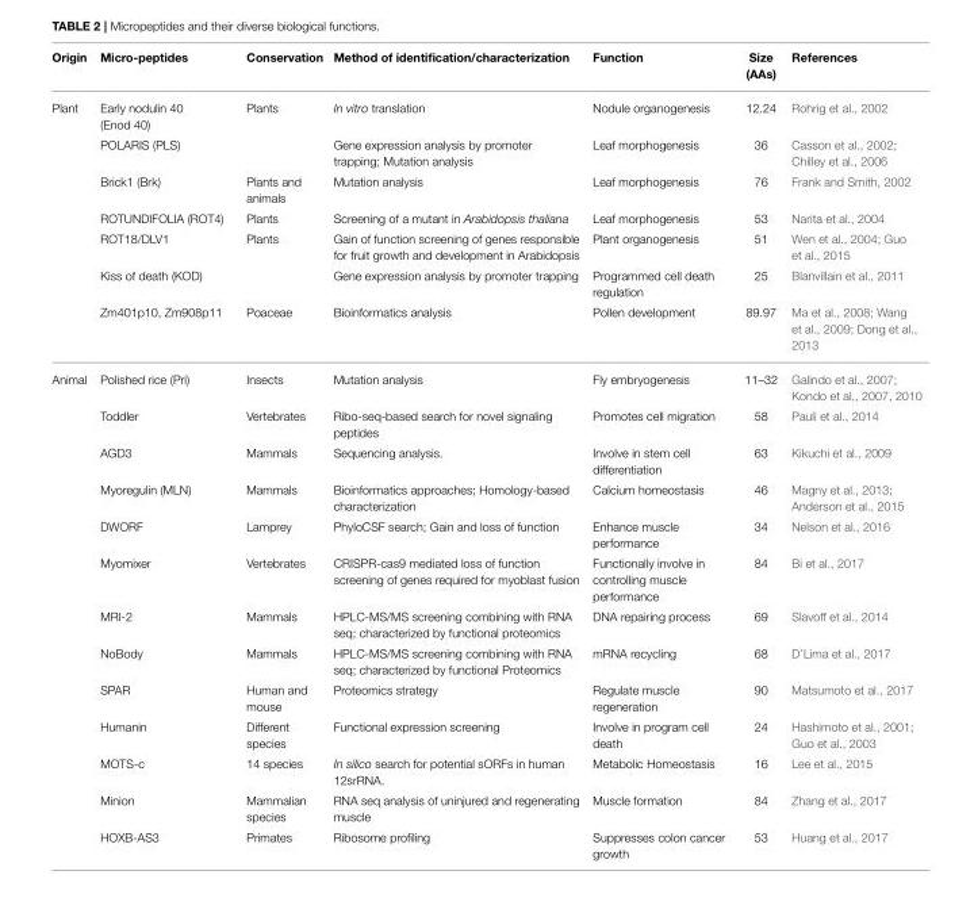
<table><thead><tr><td>Origin</td><td>Micro-peptides</td><td>Conservation</td><td>Method of identification/characterization</td><td>Function</td><td>Size (AAs)</td><td>References</td></tr></thead><tbody><tr><td rowspan="7">Plant</td><td>Early nodulin 40 (Enod 40)</td><td>Plants</td><td>In vitro translation</td><td>Nodule organogenesis</td><td>12.24</td><td>Rohrig et al., 2002</td></tr><tr><td>POLARIS (PLS)</td><td></td><td>Gene expression analysis by promoter trapping; Mutation analysis</td><td>Leaf morphogenesis</td><td>36</td><td>Casson et al., 2002; Chilley et al., 2006</td></tr><tr><td>Brick1 (Brk)</td><td>Plants and animals</td><td>Mutation analysis</td><td>Leaf morphogenesis</td><td>76</td><td>Frank and Smith, 2002</td></tr><tr><td>ROTUNDIFOLIA (ROT4)</td><td>Plants</td><td>Screening of a mutant in Arabidopsis thaliana</td><td>Leaf morphogenesis</td><td>53</td><td>Narita et al., 2004</td></tr><tr><td>ROT18/DLV1</td><td>Plants</td><td>Gain of function screening of genes responsible for fruit growth and development in Arabidopsis</td><td>Plant organogenesis</td><td>51</td><td>Wen et al., 2004; Guo et al., 2015</td></tr><tr><td>Kiss of death (KOD)</td><td></td><td>Gene expression analysis by promoter trapping</td><td>Programmed cell death regulation</td><td>25</td><td>Blanvillain et al., 2011</td></tr><tr><td>Zm401p10, Zm908p11</td><td>Poaceae</td><td>Bioinformatics analysis</td><td>Pollen development</td><td>89.97</td><td>Ma et al., 2008; Wang et al., 2009; Dong et al., 2013</td></tr><tr><td rowspan="13">Animal</td><td>Polished rice (Pri)</td><td>Insects</td><td>Mutation analysis</td><td>Fly embryogenesis</td><td>11–32</td><td>Galindo et al., 2007; Kondo et al., 2007, 2010</td></tr><tr><td>Toddler</td><td>Vertebrates</td><td>Ribo-seq-based search for novel signaling peptides</td><td>Promotes cell migration</td><td>58</td><td>Pauli et al., 2014</td></tr><tr><td>AGD3</td><td>Mammals</td><td>Sequencing analysis.</td><td>Involve in stem cell differentiation</td><td>63</td><td>Kikuchi et al., 2009</td></tr><tr><td>Myoregulin (MLN)</td><td>Mammals</td><td>Bioinformatics approaches; Homology-based characterization</td><td>Calcium homeostasis</td><td>46</td><td>Magny et al., 2013; Anderson et al., 2015</td></tr><tr><td>DWORF</td><td>Lamprey</td><td>PhyloCSF search; Gain and loss of function</td><td>Enhance muscle performance</td><td>34</td><td>Nelson et al., 2016</td></tr><tr><td>Myomixer</td><td>Vertebrates</td><td>CRISPR-cas9 mediated loss of function screening of genes required for myoblast fusion</td><td>Functionally involve in controlling muscle performance</td><td>84</td><td>Bi et al., 2017</td></tr><tr><td>MRI-2</td><td>Mammals</td><td>HPLC-MS/MS screening combining with RNA seq; characterized by functional proteomics</td><td>DNA repairing process</td><td>69</td><td>Slavoff et al., 2014</td></tr><tr><td>NoBody</td><td>Mammals</td><td>HPLC-MS/MS screening combining with RNA seq; characterized by functional Proteomics</td><td>mRNA recycling</td><td>68</td><td>D’Lima et al., 2017</td></tr><tr><td>SPAR</td><td>Human and mouse</td><td>Proteomics strategy</td><td>Regulate muscle regeneration</td><td>90</td><td>Matsumoto et al., 2017</td></tr><tr><td>Humanin</td><td>Different species</td><td>Functional expression screening</td><td>Involve in program cell death</td><td>24</td><td>Hashimoto et al., 2001; Guo et al., 2003</td></tr><tr><td>MOTS-c</td><td>14 species</td><td>In silico search for potential sORFs in human 12srRNA.</td><td>Metabolic Homeostasis</td><td>16</td><td>Lee et al., 2015</td></tr><tr><td>Minion</td><td>Mammalian species</td><td>RNA seq analysis of uninjured and regenerating muscle</td><td>Muscle formation</td><td>84</td><td>Zhang et al., 2017</td></tr><tr><td>HOXB-AS3</td><td>Primates</td><td>Ribosome profiling</td><td>Suppresses colon cancer growth</td><td>53</td><td>Huang et al., 2017</td></tr></tbody></table>